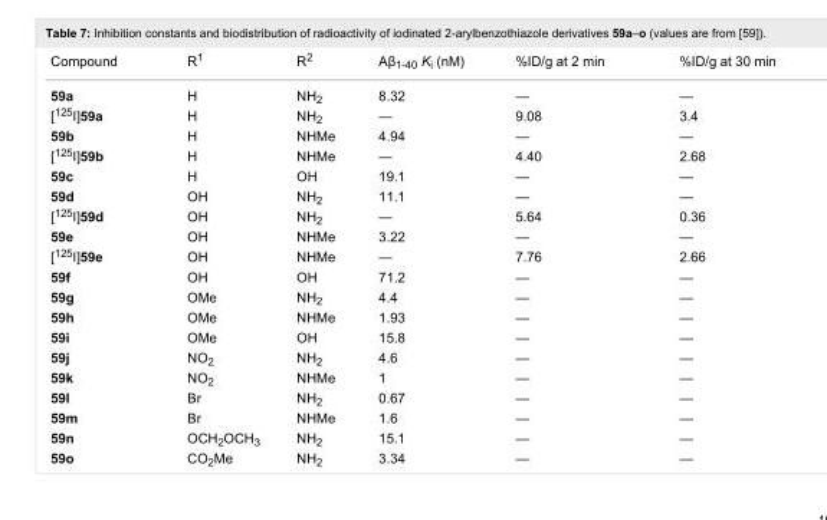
<table><tbody><tr><td>Compound</td><td>R<sup>1</sup></td><td>R<sup>2</sup></td><td>Aβ<sub>1-40</sub> K<sub>i</sub> (nM)</td><td>%ID/g at 2 min</td><td>%ID/g at 30 min</td></tr><tr><td>59a</td><td>H</td><td>NH<sub>2</sub></td><td>8.32</td><td>—</td><td>—</td></tr><tr><td>[<sup>125</sup>I]59a</td><td>H</td><td>NH<sub>2</sub></td><td>—</td><td>9.08</td><td>3.4</td></tr><tr><td>59b</td><td>H</td><td>NHMe</td><td>4.94</td><td>—</td><td>—</td></tr><tr><td>[<sup>125</sup>I]59b</td><td>H</td><td>NHMe</td><td>—</td><td>4.40</td><td>2.68</td></tr><tr><td>59c</td><td>H</td><td>OH</td><td>19.1</td><td>—</td><td>—</td></tr><tr><td>59d</td><td>OH</td><td>NH<sub>2</sub></td><td>11.1</td><td>—</td><td>—</td></tr><tr><td>[<sup>125</sup>I]59d</td><td>OH</td><td>NH<sub>2</sub></td><td>—</td><td>5.64</td><td>0.36</td></tr><tr><td>59e</td><td>OH</td><td>NHMe</td><td>3.22</td><td>—</td><td>—</td></tr><tr><td>[<sup>125</sup>I]59e</td><td>OH</td><td>NHMe</td><td>—</td><td>7.76</td><td>2.66</td></tr><tr><td>59f</td><td>OH</td><td>OH</td><td>71.2</td><td>—</td><td>—</td></tr><tr><td>59g</td><td>OMe</td><td>NH<sub>2</sub></td><td>4.4</td><td>—</td><td>—</td></tr><tr><td>59h</td><td>OMe</td><td>NHMe</td><td>1.93</td><td>—</td><td>—</td></tr><tr><td>59i</td><td>OMe</td><td>OH</td><td>15.8</td><td>—</td><td>—</td></tr><tr><td>59j</td><td>NO<sub>2</sub></td><td>NH<sub>2</sub></td><td>4.6</td><td>—</td><td>—</td></tr><tr><td>59k</td><td>NO<sub>2</sub></td><td>NHMe</td><td>1</td><td>—</td><td>—</td></tr><tr><td>59l</td><td>Br</td><td>NH<sub>2</sub></td><td>0.67</td><td>—</td><td>—</td></tr><tr><td>59m</td><td>Br</td><td>NHMe</td><td>1.6</td><td>—</td><td>—</td></tr><tr><td>59n</td><td>OCH<sub>2</sub>OCH<sub>3</sub></td><td>NH<sub>2</sub></td><td>15.1</td><td>—</td><td>—</td></tr><tr><td>59o</td><td>CO<sub>2</sub>Me</td><td>NH<sub>2</sub></td><td>3.34</td><td>—</td><td>—</td></tr></tbody></table>